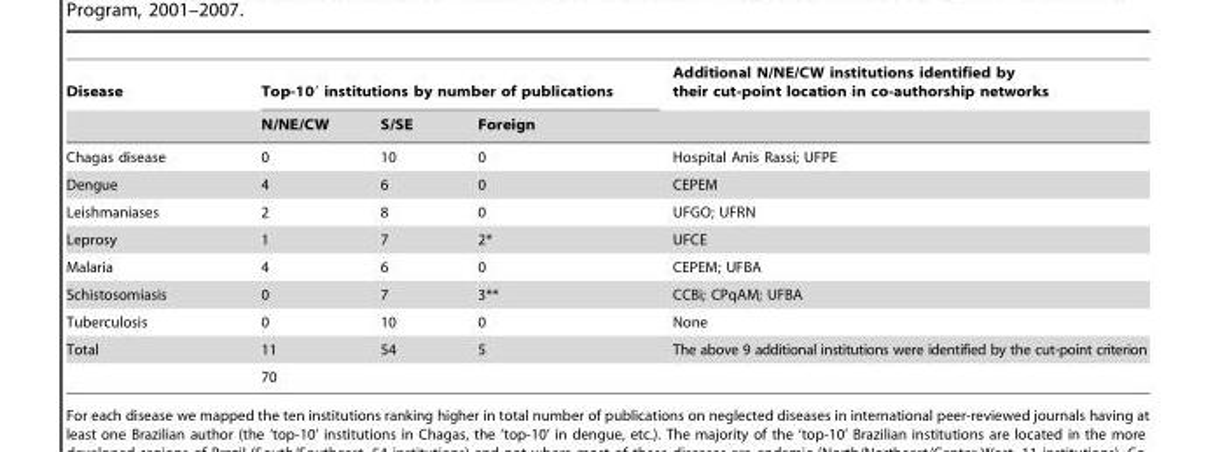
<table><thead><tr><td rowspan="2">Disease</td><td colspan="3">Top-10′ institutions by number of publications</td><td rowspan="2">Additional N/NE/CW institutions identified by their cut-point location in co-authorship networks</td></tr><tr><td>N/NE/CW</td><td>S/SE</td><td>Foreign</td></tr></thead><tbody><tr><td>Chagas disease</td><td>0</td><td>10</td><td>0</td><td>Hospital Anis Rassi; UFPE</td></tr><tr><td>Dengue</td><td>4</td><td>6</td><td>0</td><td>CEPEM</td></tr><tr><td>Leishmaniases</td><td>2</td><td>8</td><td>0</td><td>UFGO; UFRN</td></tr><tr><td>Leprosy</td><td>1</td><td>7</td><td>2*</td><td>UFCE</td></tr><tr><td>Malaria</td><td>4</td><td>6</td><td>0</td><td>CEPEM; UFBA</td></tr><tr><td>Schistosomiasis</td><td>0</td><td>7</td><td>3**</td><td>CCBi; CPqAM; UFBA</td></tr><tr><td>Tuberculosis</td><td>0</td><td>10</td><td>0</td><td>None</td></tr><tr><td rowspan="2">Total</td><td>11</td><td>54</td><td>5</td><td>The above 9 additional institutions were identified by the cut-point criterion</td></tr><tr><td colspan="3">70</td><td></td></tr></tbody></table>